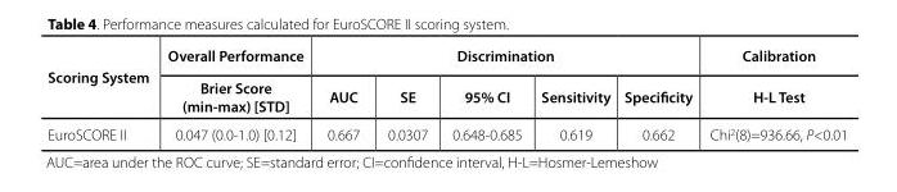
<table><thead><tr><td rowspan="2">Scoring System</td><td rowspan="2">Overall Performance Brier Score (min-max) [STD]</td><td colspan="5">Discrimination</td><td rowspan="2">Calibration H-L Test</td></tr><tr><td>AUC</td><td>SE</td><td>95% CI</td><td>Sensitivity</td><td>Specificity</td></tr></thead><tbody><tr><td>EuroSCORE II</td><td>0.047 (0.0-1.0) [0.12]</td><td>0.667</td><td>0.0307</td><td>0.648-0.685</td><td>0.619</td><td>0.662</td><td>Chi<sup>2</sup>(8)=936.66, P&lt;0.01</td></tr></tbody></table>